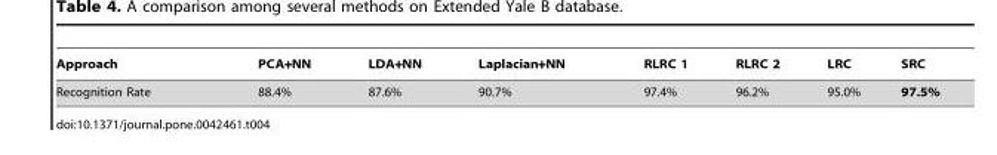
<table><thead><tr><td>Approach</td><td>PCA+NN</td><td>LDA+NN</td><td>Laplacian+NN</td><td>RLRC 1</td><td>RLRC 2</td><td>LRC</td><td>SRC</td></tr></thead><tbody><tr><td>Recognition Rate</td><td>88.4%</td><td>87.6%</td><td>90.7%</td><td>97.4%</td><td>96.2%</td><td>95.0%</td><td>97.5%</td></tr></tbody></table>